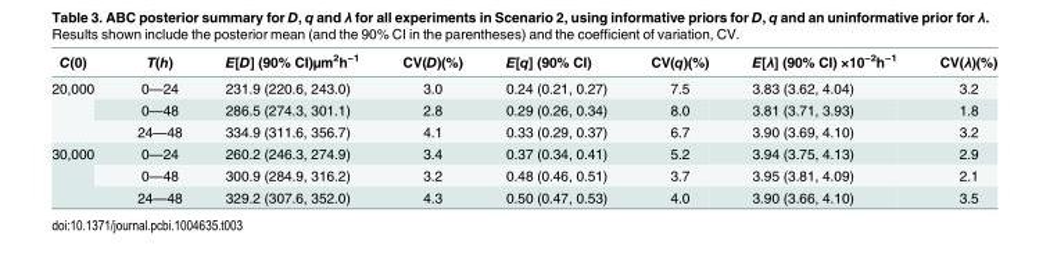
<table><thead><tr><td>C(0)</td><td>T(h)</td><td>E[D] (90% CI)µm<sup>2</sup>h<sup>−1</sup></td><td>CV(D)(%)</td><td>E[q] (90% CI)</td><td>CV(q)(%)</td><td>E[λ] (90% CI) ×10<sup>−2</sup>h<sup>−1</sup></td><td>CV(λ)(%)</td></tr></thead><tbody><tr><td rowspan="3">20,000</td><td>0—24</td><td>231.9 (220.6, 243.0)</td><td>3.0</td><td>0.24 (0.21, 0.27)</td><td>7.5</td><td>3.83 (3.62, 4.04)</td><td>3.2</td></tr><tr><td>0—48</td><td>286.5 (274.3, 301.1)</td><td>2.8</td><td>0.29 (0.26, 0.34)</td><td>8.0</td><td>3.81 (3.71, 3.93)</td><td>1.8</td></tr><tr><td>24—48</td><td>334.9 (311.6, 356.7)</td><td>4.1</td><td>0.33 (0.29, 0.37)</td><td>6.7</td><td>3.90 (3.69, 4.10)</td><td>3.2</td></tr><tr><td rowspan="3">30,000</td><td>0—24</td><td>260.2 (246.3, 274.9)</td><td>3.4</td><td>0.37 (0.34, 0.41)</td><td>5.2</td><td>3.94 (3.75, 4.13)</td><td>2.9</td></tr><tr><td>0—48</td><td>300.9 (284.9, 316.2)</td><td>3.2</td><td>0.48 (0.46, 0.51)</td><td>3.7</td><td>3.95 (3.81, 4.09)</td><td>2.1</td></tr><tr><td>24—48</td><td>329.2 (307.6, 352.0)</td><td>4.3</td><td>0.50 (0.47, 0.53)</td><td>4.0</td><td>3.90 (3.66, 4.10)</td><td>3.5</td></tr></tbody></table>